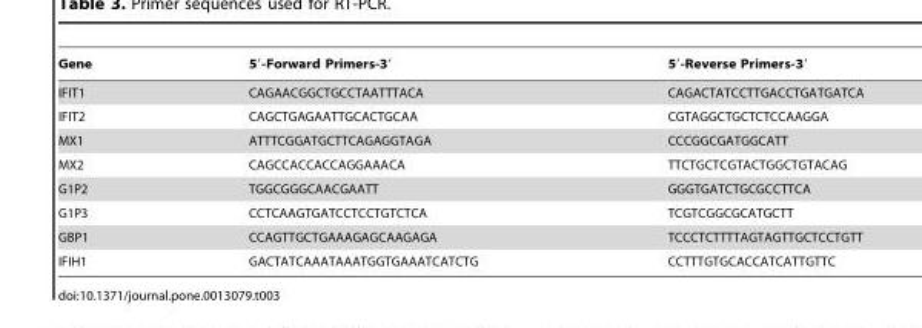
<table><thead><tr><td>Gene</td><td>5′-Forward Primers-3′</td><td>5′-Reverse Primers-3′</td></tr></thead><tbody><tr><td>IFIT1</td><td>CAGAACGGCTGCCTAATTTACA</td><td>CAGACTATCCTTGACCTGATGATCA</td></tr><tr><td>IFIT2</td><td>CAGCTGAGAATTGCACTGCAA</td><td>CGTAGGCTGCTCTCCAAGGA</td></tr><tr><td>MX1</td><td>ATTTCGGATGCTTCAGAGGTAGA</td><td>CCCGGCGATGGCATT</td></tr><tr><td>MX2</td><td>CAGCCACCACCAGGAAACA</td><td>TTCTGCTCGTACTGGCTGTACAG</td></tr><tr><td>G1P2</td><td>TGGCGGGCAACGAATT</td><td>GGGTGATCTGCGCCTTCA</td></tr><tr><td>G1P3</td><td>CCTCAAGTGATCCTCCTGTCTCA</td><td>TCGTCGGCGCATGCTT</td></tr><tr><td>GBP1</td><td>CCAGTTGCTGAAAGAGCAAGAGA</td><td>TCCCTCTTTTAGTAGTTGCTCCTGTT</td></tr><tr><td>IFIH1</td><td>GACTATCAAATAAATGGTGAAATCATCTG</td><td>CCTTTGTGCACCATCATTGTTC</td></tr></tbody></table>